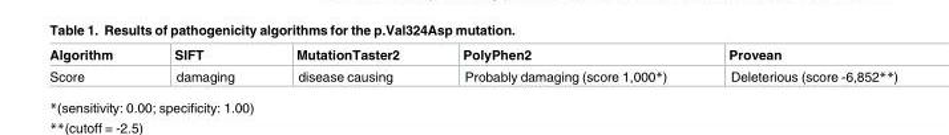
<table><thead><tr><td>Algorithm</td><td>SIFT</td><td>MutationTaster2</td><td>PolyPhen2</td><td>Provean</td></tr></thead><tbody><tr><td>Score</td><td>damaging</td><td>disease causing</td><td>Probably damaging (score 1,000*)</td><td>Deleterious (score -6,852**)</td></tr></tbody></table>